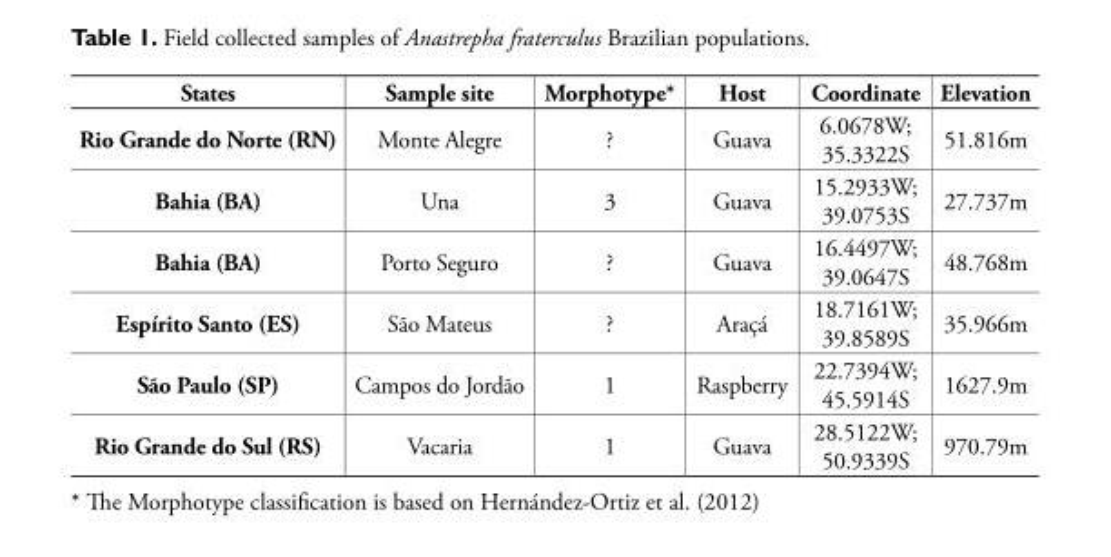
<table><thead><tr><td>States</td><td>Sample site</td><td>Morphotype*</td><td>Host</td><td>Coordinate</td><td>Elevation</td></tr></thead><tbody><tr><td>Rio Grande do Norte (RN)</td><td>Monte Alegre</td><td>?</td><td>Guava</td><td>6.0678W; 35.3322S</td><td>51.816m</td></tr><tr><td>Bahia (BA)</td><td>Una</td><td>3</td><td>Guava</td><td>15.2933W; 39.0753S</td><td>27.737m</td></tr><tr><td>Bahia (BA)</td><td>Porto Seguro</td><td>?</td><td>Guava</td><td>16.4497W; 39.0647S</td><td>48.768m</td></tr><tr><td>Espírito Santo (ES)</td><td>São Mateus</td><td>?</td><td>Araçá</td><td>18.7161W; 39.8589S</td><td>35.966m</td></tr><tr><td>São Paulo (SP)</td><td>Campos do Jordão</td><td>1</td><td>Raspberry</td><td>22.7394W; 45.5914S</td><td>1627.9m</td></tr><tr><td>Rio Grande do Sul (RS)</td><td>Vacaria</td><td>1</td><td>Guava</td><td>28.5122W; 50.9339S</td><td>970.79m</td></tr></tbody></table>